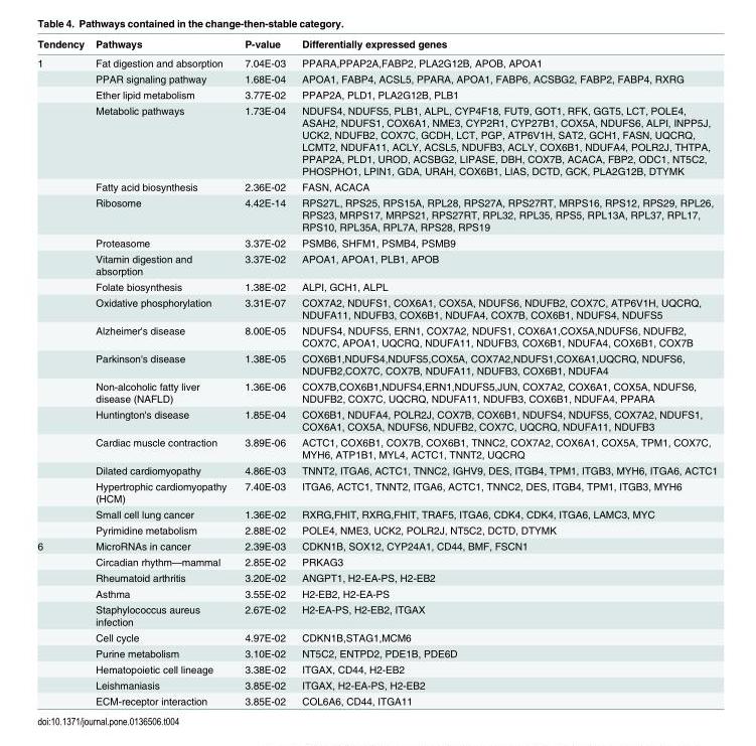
<table><thead><tr><td>Tendency</td><td>Pathways</td><td>P-value</td><td>Differentially expressed genes</td></tr></thead><tbody><tr><td rowspan="19">1</td><td>Fat digestion and absorption</td><td>7.04E-03</td><td>PPARA,PPAP2A,FABP2, PLA2G12B, APOB, APOA1</td></tr><tr><td>PPAR signaling pathway</td><td>1.68E-04</td><td>APOA1, FABP4, ACSL5, PPARA, APOA1, FABP6, ACSBG2, FABP2, FABP4, RXRG</td></tr><tr><td>Ether lipid metabolism</td><td>3.77E-02</td><td>PPAP2A, PLD1, PLA2G12B, PLB1</td></tr><tr><td>Metabolic pathways</td><td>1.73E-04</td><td>NDUFS4, NDUFS5, PLB1, ALPL, CYP4F18, FUT9, GOT1, RFK, GGT5, LCT, POLE4, ASAH2, NDUFS1, COX6A1, NME3, CYP2R1, CYP27B1, COX5A, NDUFS6, ALPI, INPP5J, UCK2, NDUFB2, COX7C, GCDH, LCT, PGP, ATP6V1H, SAT2, GCH1, FASN, UQCRQ, LCMT2, NDUFA11, ACLY, ACSL5, NDUFB3, ACLY, COX6B1, NDUFA4, POLR2J, THTPA, PPAP2A, PLD1, UROD, ACSBG2, LIPASE, DBH, COX7B, ACACA, FBP2, ODC1, NT5C2, PHOSPHO1, LPIN1, GDA, URAH, COX6B1, LIAS, DCTD, GCK, PLA2G12B, DTYMK</td></tr><tr><td>Fatty acid biosynthesis</td><td>2.36E-02</td><td>FASN, ACACA</td></tr><tr><td>Ribosome</td><td>4.42E-14</td><td>RPS27L, RPS25, RPS15A, RPL28, RPS27A, RPS27RT, MRPS16, RPS12, RPS29, RPL26, RPS23, MRPS17, MRPS21, RPS27RT, RPL32, RPL35, RPS5, RPL13A, RPL37, RPL17, RPS10, RPL35A, RPL7A, RPS28, RPS19</td></tr><tr><td>Proteasome</td><td>3.37E-02</td><td>PSMB6, SHFM1, PSMB4, PSMB9</td></tr><tr><td>Vitamin digestion and absorption</td><td>3.37E-02</td><td>APOA1, APOA1, PLB1, APOB</td></tr><tr><td>Folate biosynthesis</td><td>1.38E-02</td><td>ALPI, GCH1, ALPL</td></tr><tr><td>Oxidative phosphorylation</td><td>3.31E-07</td><td>COX7A2, NDUFS1, COX6A1, COX5A, NDUFS6, NDUFB2, COX7C, ATP6V1H, UQCRQ, NDUFA11, NDUFB3, COX6B1, NDUFA4, COX7B, COX6B1, NDUFS4, NDUFS5</td></tr><tr><td>Alzheimer&#x27;s disease</td><td>8.00E-05</td><td>NDUFS4, NDUFS5, ERN1, COX7A2, NDUFS1, COX6A1,COX5A,NDUFS6, NDUFB2, COX7C, APOA1, UQCRQ, NDUFA11, NDUFB3, COX6B1, NDUFA4, COX6B1, COX7B</td></tr><tr><td>Parkinson&#x27;s disease</td><td>1.38E-05</td><td>COX6B1,NDUFS4,NDUFS5,COX5A, COX7A2,NDUFS1,COX6A1,UQCRQ, NDUFS6, NDUFB2,COX7C, COX7B, NDUFA11, NDUFB3, COX6B1, NDUFA4</td></tr><tr><td>Non-alcoholic fatty liver disease (NAFLD)</td><td>1.36E-06</td><td>COX7B,COX6B1,NDUFS4,ERN1,NDUFS5,JUN, COX7A2, COX6A1, COX5A, NDUFS6, NDUFB2, COX7C, UQCRQ, NDUFA11, NDUFB3, COX6B1, NDUFA4, PPARA</td></tr><tr><td>Huntington&#x27;s disease</td><td>1.85E-04</td><td>COX6B1, NDUFA4, POLR2J, COX7B, COX6B1, NDUFS4, NDUFS5, COX7A2, NDUFS1, COX6A1, COX5A, NDUFS6, NDUFB2, COX7C, UQCRQ, NDUFA11, NDUFB3</td></tr><tr><td>Cardiac muscle contraction</td><td>3.89E-06</td><td>ACTC1, COX6B1, COX7B, COX6B1, TNNC2, COX7A2, COX6A1, COX5A, TPM1, COX7C, MYH6, ATP1B1, MYL4, ACTC1, TNNT2, UQCRQ</td></tr><tr><td>Dilated cardiomyopathy</td><td>4.86E-03</td><td>TNNT2, ITGA6, ACTC1, TNNC2, IGHV9, DES, ITGB4, TPM1, ITGB3, MYH6, ITGA6, ACTC1</td></tr><tr><td>Hypertrophic cardiomyopathy (HCM)</td><td>7.40E-03</td><td>ITGA6, ACTC1, TNNT2, ITGA6, ACTC1, TNNC2, DES, ITGB4, TPM1, ITGB3, MYH6</td></tr><tr><td>Small cell lung cancer</td><td>1.36E-02</td><td>RXRG,FHIT, RXRG,FHIT, TRAF5, ITGA6, CDK4, CDK4, ITGA6, LAMC3, MYC</td></tr><tr><td>Pyrimidine metabolism</td><td>2.88E-02</td><td>POLE4, NME3, UCK2, POLR2J, NT5C2, DCTD, DTYMK</td></tr><tr><td rowspan="10">6</td><td>MicroRNAs in cancer</td><td>2.39E-03</td><td>CDKN1B, SOX12, CYP24A1, CD44, BMF, FSCN1</td></tr><tr><td>Circadian rhythm—mammal</td><td>2.85E-02</td><td>PRKAG3</td></tr><tr><td>Rheumatoid arthritis</td><td>3.20E-02</td><td>ANGPT1, H2-EA-PS, H2-EB2</td></tr><tr><td>Asthma</td><td>3.55E-02</td><td>H2-EB2, H2-EA-PS</td></tr><tr><td>Staphylococcus aureus infection</td><td>2.67E-02</td><td>H2-EA-PS, H2-EB2, ITGAX</td></tr><tr><td>Cell cycle</td><td>4.97E-02</td><td>CDKN1B,STAG1,MCM6</td></tr><tr><td>Purine metabolism</td><td>3.10E-02</td><td>NT5C2, ENTPD2, PDE1B, PDE6D</td></tr><tr><td>Hematopoietic cell lineage</td><td>3.38E-02</td><td>ITGAX, CD44, H2-EB2</td></tr><tr><td>Leishmaniasis</td><td>3.85E-02</td><td>ITGAX, H2-EA-PS, H2-EB2</td></tr><tr><td>ECM-receptor interaction</td><td>3.85E-02</td><td>COL6A6, CD44, ITGA11</td></tr></tbody></table>